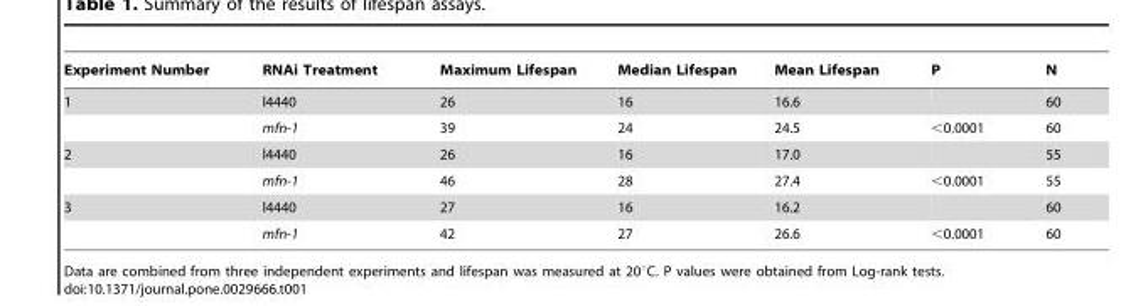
<table><thead><tr><td>Experiment Number</td><td>RNAi Treatment</td><td>Maximum Lifespan</td><td>Median Lifespan</td><td>Mean Lifespan</td><td>P</td><td>N</td></tr></thead><tbody><tr><td rowspan="2">1</td><td>l4440</td><td>26</td><td>16</td><td>16.6</td><td></td><td>60</td></tr><tr><td>mfn-1</td><td>39</td><td>24</td><td>24.5</td><td>&lt;0.0001</td><td>60</td></tr><tr><td rowspan="2">2</td><td>l4440</td><td>26</td><td>16</td><td>17.0</td><td></td><td>55</td></tr><tr><td>mfn-1</td><td>46</td><td>28</td><td>27.4</td><td>&lt;0.0001</td><td>55</td></tr><tr><td rowspan="2">3</td><td>l4440</td><td>27</td><td>16</td><td>16.2</td><td></td><td>60</td></tr><tr><td>mfn-1</td><td>42</td><td>27</td><td>26.6</td><td>&lt;0.0001</td><td>60</td></tr></tbody></table>